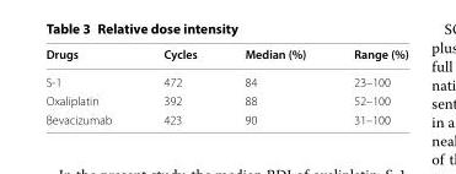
<table><thead><tr><td>Drugs</td><td>Cycles</td><td>Median (%)</td><td>Range (%)</td></tr></thead><tbody><tr><td>S-1</td><td>472</td><td>84</td><td>23–100</td></tr><tr><td>Oxaliplatin</td><td>392</td><td>88</td><td>52–100</td></tr><tr><td>Bevacizumab</td><td>423</td><td>90</td><td>31–100</td></tr></tbody></table>